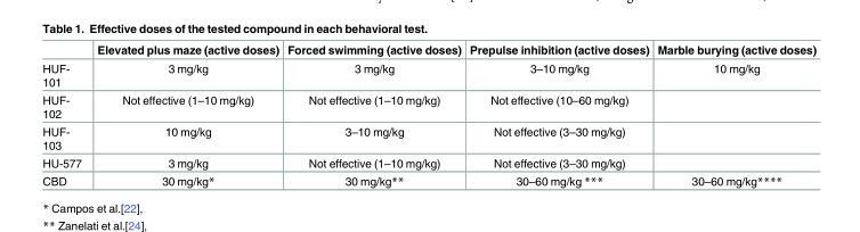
<table><thead><tr><td></td><td>Elevated plus maze (active doses)</td><td>Forced swimming (active doses)</td><td>Prepulse inhibition (active doses)</td><td>Marble burying (active doses)</td></tr></thead><tbody><tr><td>HUF- 101</td><td>3 mg/kg</td><td>3 mg/kg</td><td>3–10 mg/kg</td><td>10 mg/kg</td></tr><tr><td>HUF- 102</td><td>Not effective (1–10 mg/kg)</td><td>Not effective (1–10 mg/kg)</td><td>Not effective (10–60 mg/kg)</td><td></td></tr><tr><td>HUF- 103</td><td>10 mg/kg</td><td>3–10 mg/kg</td><td>Not effective (3–30 mg/kg)</td><td></td></tr><tr><td>HU-577</td><td>3 mg/kg</td><td>Not effective (1–10 mg/kg)</td><td>Not effective (3–30 mg/kg)</td><td></td></tr><tr><td>CBD</td><td>30 mg/kg*</td><td>30 mg/kg**</td><td>30–60 mg/kg ***</td><td>30–60 mg/kg****</td></tr></tbody></table>